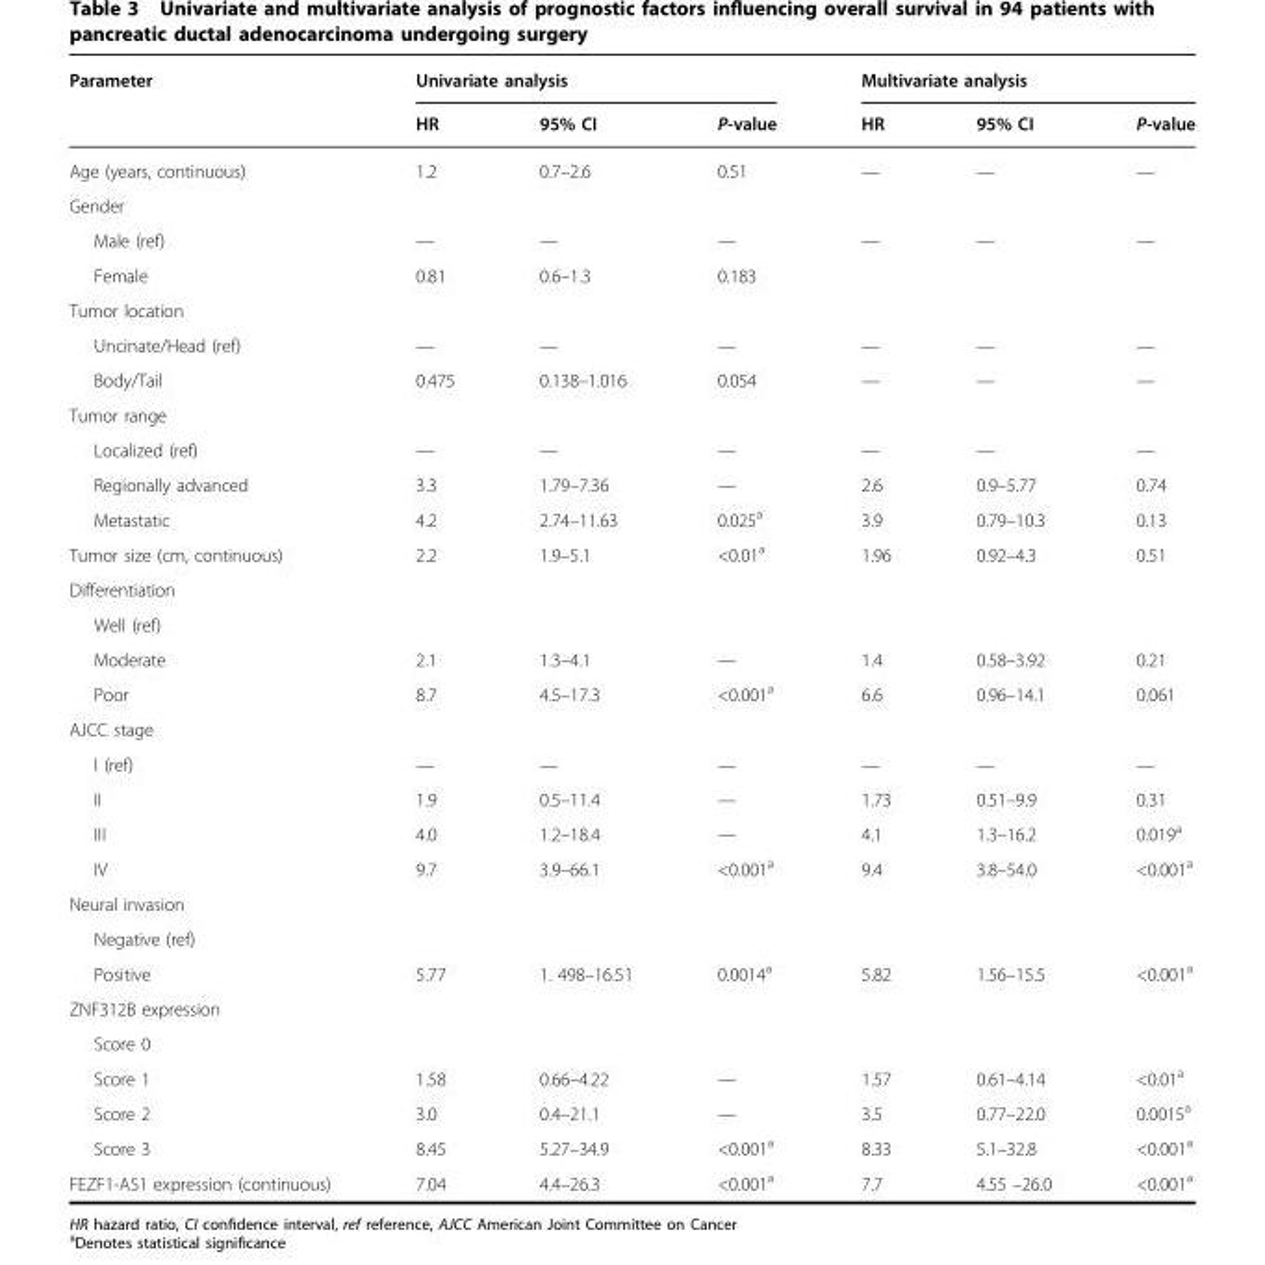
<table><thead><tr><td rowspan="2">Parameter</td><td colspan="3">Univariate analysis</td><td colspan="3">Multivariate analysis</td></tr><tr><td>HR</td><td>95% CI</td><td>P-value</td><td>HR</td><td>95% CI</td><td>P-value</td></tr></thead><tbody><tr><td>Age (years, continuous)</td><td>1.2</td><td>0.7–2.6</td><td>0.51</td><td>—</td><td>—</td><td>—</td></tr><tr><td colspan="7">Gender</td></tr><tr><td>Male (ref)</td><td>—</td><td>—</td><td>—</td><td>—</td><td>—</td><td>—</td></tr><tr><td>Female</td><td>0.81</td><td>0.6–1.3</td><td>0.183</td><td></td><td></td><td></td></tr><tr><td colspan="7">Tumor location</td></tr><tr><td>Uncinate/Head (ref)</td><td>—</td><td>—</td><td>—</td><td>—</td><td>—</td><td>—</td></tr><tr><td>Body/Tail</td><td>0.475</td><td>0.138–1.016</td><td>0.054</td><td>—</td><td>—</td><td>—</td></tr><tr><td colspan="7">Tumor range</td></tr><tr><td>Localized (ref)</td><td>—</td><td>—</td><td>—</td><td>—</td><td>—</td><td>—</td></tr><tr><td>Regionally advanced</td><td>3.3</td><td>1.79–7.36</td><td>—</td><td>2.6</td><td>0.9–5.77</td><td>0.74</td></tr><tr><td>Metastatic</td><td>4.2</td><td>2.74–11.63</td><td>0.025<sup>a</sup></td><td>3.9</td><td>0.79–10.3</td><td>0.13</td></tr><tr><td>Tumor size (cm, continuous)</td><td>2.2</td><td>1.9–5.1</td><td>&lt;0.01<sup>a</sup></td><td>1.96</td><td>0.92–4.3</td><td>0.51</td></tr><tr><td colspan="7">Differentiation</td></tr><tr><td colspan="7">Well (ref)</td></tr><tr><td>Moderate</td><td>2.1</td><td>1.3–4.1</td><td>—</td><td>1.4</td><td>0.58–3.92</td><td>0.21</td></tr><tr><td>Poor</td><td>8.7</td><td>4.5–17.3</td><td>&lt;0.001<sup>a</sup></td><td>6.6</td><td>0.96–14.1</td><td>0.061</td></tr><tr><td colspan="7">AJCC stage</td></tr><tr><td>I (ref)</td><td>—</td><td>—</td><td>—</td><td>—</td><td>—</td><td>—</td></tr><tr><td>II</td><td>1.9</td><td>0.5–11.4</td><td>—</td><td>1.73</td><td>0.51–9.9</td><td>0.31</td></tr><tr><td>III</td><td>4.0</td><td>1.2–18.4</td><td>—</td><td>4.1</td><td>1.3–16.2</td><td>0.019<sup>a</sup></td></tr><tr><td>IV</td><td>9.7</td><td>3.9–66.1</td><td>&lt;0.001<sup>a</sup></td><td>9.4</td><td>3.8–54.0</td><td>&lt;0.001<sup>a</sup></td></tr><tr><td colspan="7">Neural invasion</td></tr><tr><td colspan="7">Negative (ref)</td></tr><tr><td>Positive</td><td>5.77</td><td>1. 498–16.51</td><td>0.0014<sup>a</sup></td><td>5.82</td><td>1.56–15.5</td><td>&lt;0.001<sup>a</sup></td></tr><tr><td colspan="7">ZNF312B expression</td></tr><tr><td colspan="7">Score 0</td></tr><tr><td>Score 1</td><td>1.58</td><td>0.66–4.22</td><td>—</td><td>1.57</td><td>0.61–4.14</td><td>&lt;0.01<sup>a</sup></td></tr><tr><td>Score 2</td><td>3.0</td><td>0.4–21.1</td><td>—</td><td>3.5</td><td>0.77–22.0</td><td>0.0015<sup>a</sup></td></tr><tr><td>Score 3</td><td>8.45</td><td>5.27–34.9</td><td>&lt;0.001<sup>a</sup></td><td>8.33</td><td>5.1–32.8</td><td>&lt;0.001<sup>a</sup></td></tr><tr><td>FEZF1-AS1 expression (continuous)</td><td>7.04</td><td>4.4–26.3</td><td>&lt;0.001<sup>a</sup></td><td>7.7</td><td>4.55 –26.0</td><td>&lt;0.001<sup>a</sup></td></tr></tbody></table>